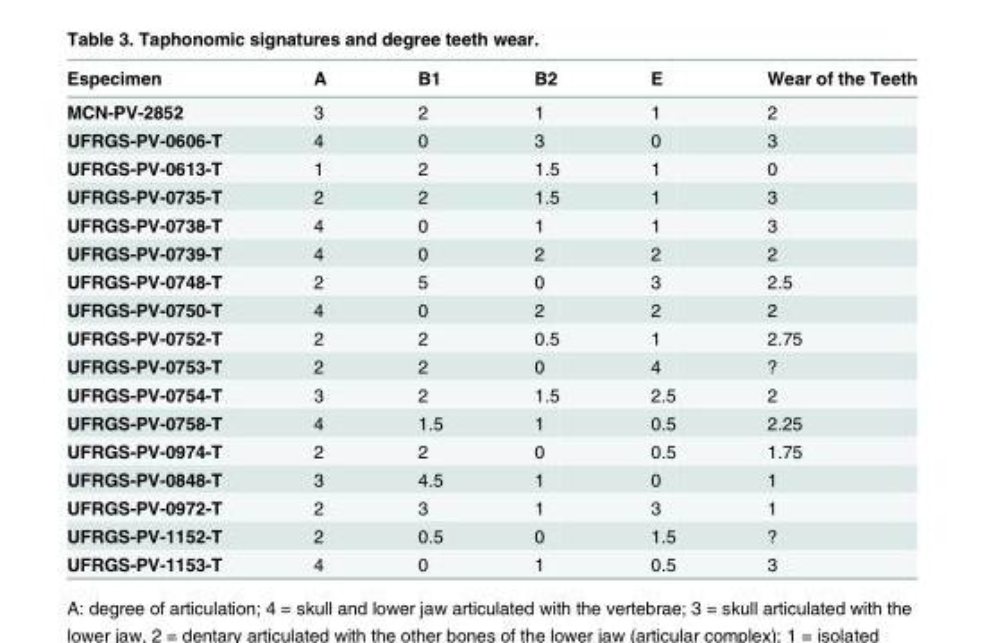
<table><thead><tr><td>Especimen</td><td>A</td><td>B1</td><td>B2</td><td>E</td><td>Wear of the Teeth</td></tr></thead><tbody><tr><td>MCN-PV-2852</td><td>3</td><td>2</td><td>1</td><td>1</td><td>2</td></tr><tr><td>UFRGS-PV-0606-T</td><td>4</td><td>0</td><td>3</td><td>0</td><td>3</td></tr><tr><td>UFRGS-PV-0613-T</td><td>1</td><td>2</td><td>1.5</td><td>1</td><td>0</td></tr><tr><td>UFRGS-PV-0735-T</td><td>2</td><td>2</td><td>1.5</td><td>1</td><td>3</td></tr><tr><td>UFRGS-PV-0738-T</td><td>4</td><td>0</td><td>1</td><td>1</td><td>3</td></tr><tr><td>UFRGS-PV-0739-T</td><td>4</td><td>0</td><td>2</td><td>2</td><td>2</td></tr><tr><td>UFRGS-PV-0748-T</td><td>2</td><td>5</td><td>0</td><td>3</td><td>2.5</td></tr><tr><td>UFRGS-PV-0750-T</td><td>4</td><td>0</td><td>2</td><td>2</td><td>2</td></tr><tr><td>UFRGS-PV-0752-T</td><td>2</td><td>2</td><td>0.5</td><td>1</td><td>2.75</td></tr><tr><td>UFRGS-PV-0753-T</td><td>2</td><td>2</td><td>0</td><td>4</td><td>?</td></tr><tr><td>UFRGS-PV-0754-T</td><td>3</td><td>2</td><td>1.5</td><td>2.5</td><td>2</td></tr><tr><td>UFRGS-PV-0758-T</td><td>4</td><td>1.5</td><td>1</td><td>0.5</td><td>2.25</td></tr><tr><td>UFRGS-PV-0974-T</td><td>2</td><td>2</td><td>0</td><td>0.5</td><td>1.75</td></tr><tr><td>UFRGS-PV-0848-T</td><td>3</td><td>4.5</td><td>1</td><td>0</td><td>1</td></tr><tr><td>UFRGS-PV-0972-T</td><td>2</td><td>3</td><td>1</td><td>3</td><td>1</td></tr><tr><td>UFRGS-PV-1152-T</td><td>2</td><td>0.5</td><td>0</td><td>1.5</td><td>?</td></tr><tr><td>UFRGS-PV-1153-T</td><td>4</td><td>0</td><td>1</td><td>0.5</td><td>3</td></tr></tbody></table>